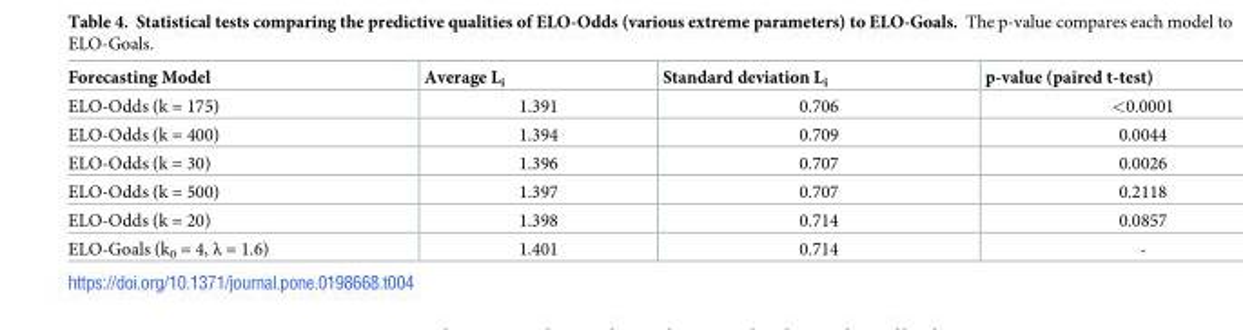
<table><thead><tr><td>Forecasting Model</td><td>Average L<sub>i</sub></td><td>Standard deviation L<sub>i</sub></td><td>p-value (paired t-test)</td></tr></thead><tbody><tr><td>ELO-Odds (k = 175)</td><td>1.391</td><td>0.706</td><td>&lt;0.0001</td></tr><tr><td>ELO-Odds (k = 400)</td><td>1.394</td><td>0.709</td><td>0.0044</td></tr><tr><td>ELO-Odds (k = 30)</td><td>1.396</td><td>0.707</td><td>0.0026</td></tr><tr><td>ELO-Odds (k = 500)</td><td>1.397</td><td>0.707</td><td>0.2118</td></tr><tr><td>ELO-Odds (k = 20)</td><td>1.398</td><td>0.714</td><td>0.0857</td></tr><tr><td>ELO-Goals (k<sub>0</sub> = 4, λ = 1.6)</td><td>1.401</td><td>0.714</td><td>-</td></tr></tbody></table>